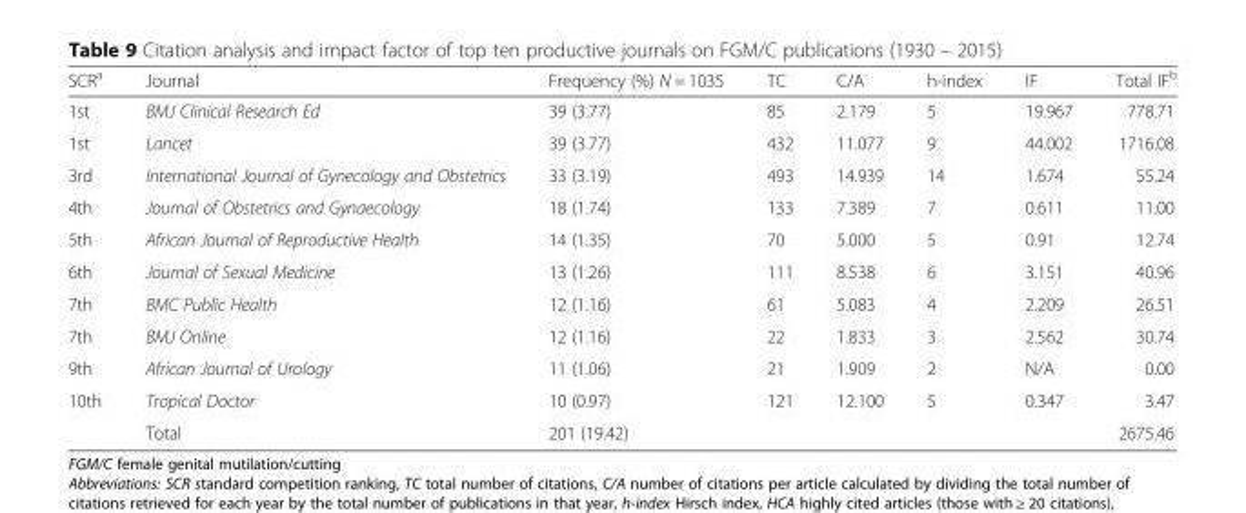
<table><thead><tr><td>SCR<sup>a</sup></td><td>Journal</td><td>Frequency (%) N = 1035</td><td>TC</td><td>C/A</td><td>h-index</td><td>IF</td><td>Total IF<sup>b</sup></td></tr></thead><tbody><tr><td>1st</td><td>BMJ Clinical Research Ed</td><td>39 (3.77)</td><td>85</td><td>2.179</td><td>5</td><td>19.967</td><td>778.71</td></tr><tr><td>1st</td><td>Lancet</td><td>39 (3.77)</td><td>432</td><td>11.077</td><td>9</td><td>44.002</td><td>1716.08</td></tr><tr><td>3rd</td><td>International Journal of Gynecology and Obstetrics</td><td>33 (3.19)</td><td>493</td><td>14.939</td><td>14</td><td>1.674</td><td>55.24</td></tr><tr><td>4th</td><td>Journal of Obstetrics and Gynaecology</td><td>18 (1.74)</td><td>133</td><td>7.389</td><td>7</td><td>0.611</td><td>11.00</td></tr><tr><td>5th</td><td>African Journal of Reproductive Health</td><td>14 (1.35)</td><td>70</td><td>5.000</td><td>5</td><td>0.91</td><td>12.74</td></tr><tr><td>6th</td><td>Journal of Sexual Medicine</td><td>13 (1.26)</td><td>111</td><td>8.538</td><td>6</td><td>3.151</td><td>40.96</td></tr><tr><td>7th</td><td>BMC Public Health</td><td>12 (1.16)</td><td>61</td><td>5.083</td><td>4</td><td>2.209</td><td>26.51</td></tr><tr><td>7th</td><td>BMJ Online</td><td>12 (1.16)</td><td>22</td><td>1.833</td><td>3</td><td>2.562</td><td>30.74</td></tr><tr><td>9th</td><td>African Journal of Urology</td><td>11 (1.06)</td><td>21</td><td>1.909</td><td>2</td><td>N/A</td><td>0.00</td></tr><tr><td rowspan="2">10th</td><td>Tropical Doctor</td><td>10 (0.97)</td><td>121</td><td>12.100</td><td>5</td><td>0.347</td><td>3.47</td></tr><tr><td>Total</td><td>201 (19.42)</td><td></td><td></td><td></td><td></td><td>2675.46</td></tr></tbody></table>